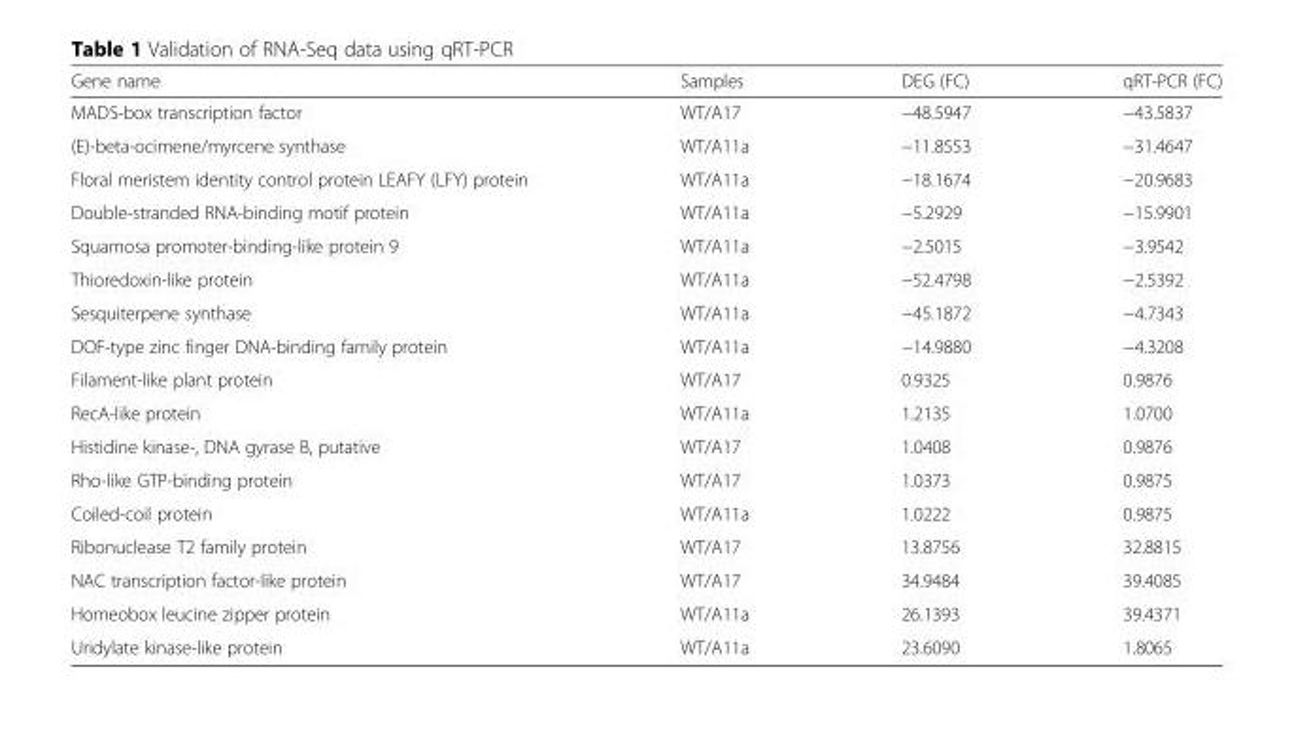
<table><thead><tr><td>Gene name</td><td>Samples</td><td>DEG (FC)</td><td>qRT-PCR (FC)</td></tr></thead><tbody><tr><td>MADS-box transcription factor</td><td>WT/A17</td><td>−48.5947</td><td>−43.5837</td></tr><tr><td>(E)-beta-ocimene/myrcene synthase</td><td>WT/A11a</td><td>−11.8553</td><td>−31.4647</td></tr><tr><td>Floral meristem identity control protein LEAFY (LFY) protein</td><td>WT/A11a</td><td>−18.1674</td><td>−20.9683</td></tr><tr><td>Double-stranded RNA-binding motif protein</td><td>WT/A11a</td><td>−5.2929</td><td>−15.9901</td></tr><tr><td>Squamosa promoter-binding-like protein 9</td><td>WT/A11a</td><td>−2.5015</td><td>−3.9542</td></tr><tr><td>Thioredoxin-like protein</td><td>WT/A11a</td><td>−52.4798</td><td>−2.5392</td></tr><tr><td>Sesquiterpene synthase</td><td>WT/A11a</td><td>−45.1872</td><td>−4.7343</td></tr><tr><td>DOF-type zinc finger DNA-binding family protein</td><td>WT/A11a</td><td>−14.9880</td><td>−4.3208</td></tr><tr><td>Filament-like plant protein</td><td>WT/A17</td><td>0.9325</td><td>0.9876</td></tr><tr><td>RecA-like protein</td><td>WT/A11a</td><td>1.2135</td><td>1.0700</td></tr><tr><td>Histidine kinase-, DNA gyrase B, putative</td><td>WT/A17</td><td>1.0408</td><td>0.9876</td></tr><tr><td>Rho-like GTP-binding protein</td><td>WT/A17</td><td>1.0373</td><td>0.9875</td></tr><tr><td>Coiled-coil protein</td><td>WT/A11a</td><td>1.0222</td><td>0.9875</td></tr><tr><td>Ribonuclease T2 family protein</td><td>WT/A17</td><td>13.8756</td><td>32.8815</td></tr><tr><td>NAC transcription factor-like protein</td><td>WT/A17</td><td>34.9484</td><td>39.4085</td></tr><tr><td>Homeobox leucine zipper protein</td><td>WT/A11a</td><td>26.1393</td><td>39.4371</td></tr><tr><td>Uridylate kinase-like protein</td><td>WT/A11a</td><td>23.6090</td><td>1.8065</td></tr></tbody></table>